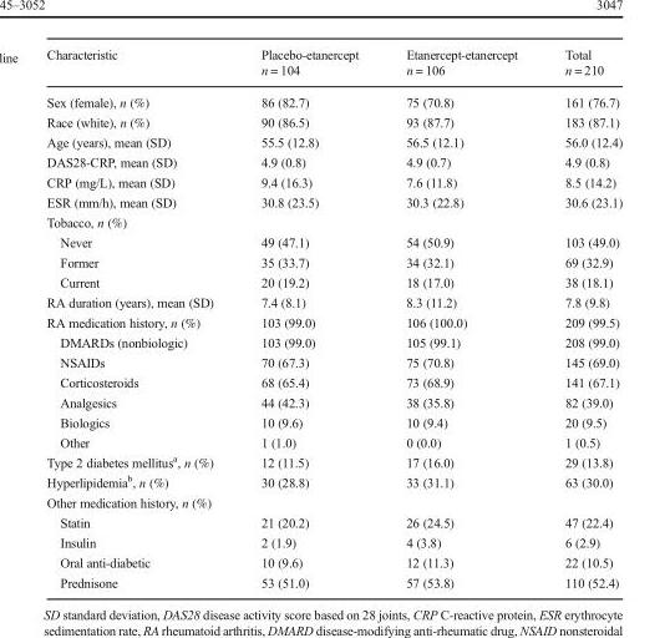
<table><thead><tr><td rowspan="2">Characteristic</td><td rowspan="2">Placebo-etanercept n = 104</td><td rowspan="2">Etanercept-etanercept n = 106</td><td rowspan="2">Total n = 210</td></tr><tr></tr></thead><tbody><tr><td>Sex (female), n (%)</td><td>86 (82.7)</td><td>75 (70.8)</td><td>161 (76.7)</td></tr><tr><td>Race (white), n (%)</td><td>90 (86.5)</td><td>93 (87.7)</td><td>183 (87.1)</td></tr><tr><td>Age (years), mean (SD)</td><td>55.5 (12.8)</td><td>56.5 (12.1)</td><td>56.0 (12.4)</td></tr><tr><td>DAS28-CRP, mean (SD)</td><td>4.9 (0.8)</td><td>4.9 (0.7)</td><td>4.9 (0.8)</td></tr><tr><td>CRP (mg/L), mean (SD)</td><td>9.4 (16.3)</td><td>7.6 (11.8)</td><td>8.5 (14.2)</td></tr><tr><td>ESR (mm/h), mean (SD)</td><td>30.8 (23.5)</td><td>30.3 (22.8)</td><td>30.6 (23.1)</td></tr><tr><td colspan="4">Tobacco, n (%)</td></tr><tr><td>Never</td><td>49 (47.1)</td><td>54 (50.9)</td><td>103 (49.0)</td></tr><tr><td>Former</td><td>35 (33.7)</td><td>34 (32.1)</td><td>69 (32.9)</td></tr><tr><td>Current</td><td>20 (19.2)</td><td>18 (17.0)</td><td>38 (18.1)</td></tr><tr><td>RA duration (years), mean (SD)</td><td>7.4 (8.1)</td><td>8.3 (11.2)</td><td>7.8 (9.8)</td></tr><tr><td>RA medication history, n (%)</td><td>103 (99.0)</td><td>106 (100.0)</td><td>209 (99.5)</td></tr><tr><td>DMARDs (nonbiologic)</td><td>103 (99.0)</td><td>105 (99.1)</td><td>208 (99.0)</td></tr><tr><td>NSAIDs</td><td>70 (67.3)</td><td>75 (70.8)</td><td>145 (69.0)</td></tr><tr><td>Corticosteroids</td><td>68 (65.4)</td><td>73 (68.9)</td><td>141 (67.1)</td></tr><tr><td>Analgesics</td><td>44 (42.3)</td><td>38 (35.8)</td><td>82 (39.0)</td></tr><tr><td>Biologics</td><td>10 (9.6)</td><td>10 (9.4)</td><td>20 (9.5)</td></tr><tr><td>Other</td><td>1 (1.0)</td><td>0 (0.0)</td><td>1 (0.5)</td></tr><tr><td>Type 2 diabetes mellitus<sup>a</sup>, n (%)</td><td>12 (11.5)</td><td>17 (16.0)</td><td>29 (13.8)</td></tr><tr><td>Hyperlipidemia<sup>b</sup>, n (%)</td><td>30 (28.8)</td><td>33 (31.1)</td><td>63 (30.0)</td></tr><tr><td colspan="4">Other medication history, n (%)</td></tr><tr><td>Statin</td><td>21 (20.2)</td><td>26 (24.5)</td><td>47 (22.4)</td></tr><tr><td>Insulin</td><td>2 (1.9)</td><td>4 (3.8)</td><td>6 (2.9)</td></tr><tr><td>Oral anti-diabetic</td><td>10 (9.6)</td><td>12 (11.3)</td><td>22 (10.5)</td></tr><tr><td>Prednisone</td><td>53 (51.0)</td><td>57 (53.8)</td><td>110 (52.4)</td></tr></tbody></table>